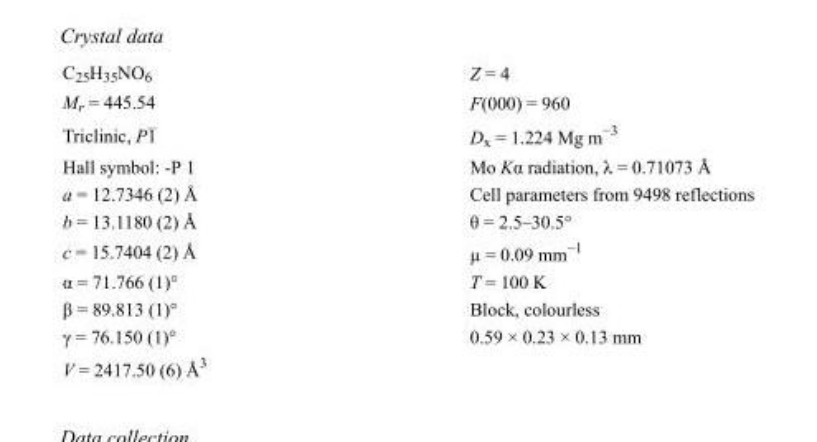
<table><tbody><tr><td>C<sub>25</sub>H<sub>35</sub>NO<sub>6</sub></td><td>Z = 4</td></tr><tr><td>M<sub>r</sub> = 445.54</td><td>F(000) = 960</td></tr><tr><td>Triclinic, P1</td><td>D<sub>x</sub> = 1.224 Mg m<sup>−3</sup></td></tr><tr><td>Hall symbol: -P 1</td><td>Mo Kα radiation, λ = 0.71073 Å</td></tr><tr><td>a = 12.7346 (2) Å</td><td>Cell parameters from 9498 reflections</td></tr><tr><td>b = 13.1180 (2) Å</td><td>θ = 2.5–30.5°</td></tr><tr><td>c = 15.7404 (2) Å</td><td>µ = 0.09 mm<sup>−1</sup></td></tr><tr><td>α = 71.766 (1)°</td><td>T = 100 K</td></tr><tr><td>β = 89.813 (1)°</td><td>Block, colourless</td></tr><tr><td>γ = 76.150 (1)°</td><td>0.59 × 0.23 × 0.13 mm</td></tr><tr><td>V = 2417.50 (6) Å<sup>3</sup></td><td></td></tr></tbody></table>